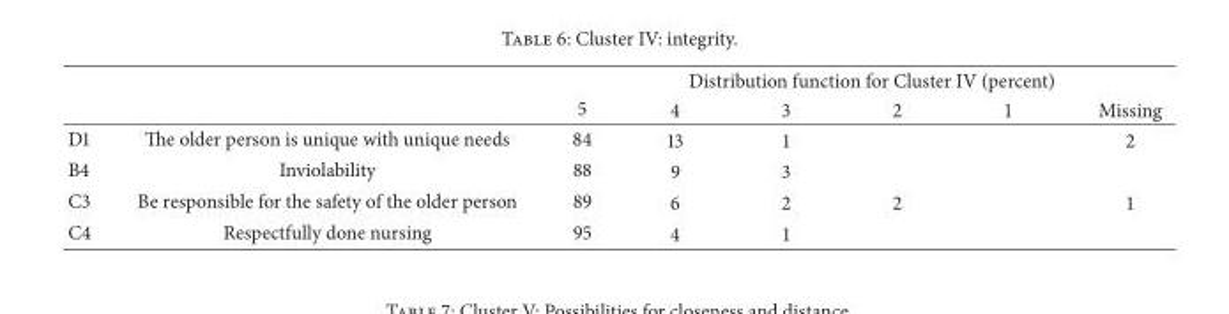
<table><thead><tr><td rowspan="2"></td><td rowspan="2"></td><td colspan="6">Distribution function for Cluster IV (percent)</td></tr><tr><td>5</td><td>4</td><td>3</td><td>2</td><td>1</td><td>Missing</td></tr></thead><tbody><tr><td>D1</td><td>The older person is unique with unique needs</td><td>84</td><td>13</td><td>1</td><td></td><td></td><td>2</td></tr><tr><td>B4</td><td>Inviolability</td><td>88</td><td>9</td><td>3</td><td></td><td></td><td></td></tr><tr><td>C3</td><td>Be responsible for the safety of the older person</td><td>89</td><td>6</td><td>2</td><td>2</td><td></td><td>1</td></tr><tr><td>C4</td><td>Respectfully done nursing</td><td>95</td><td>4</td><td>1</td><td></td><td></td><td></td></tr></tbody></table>